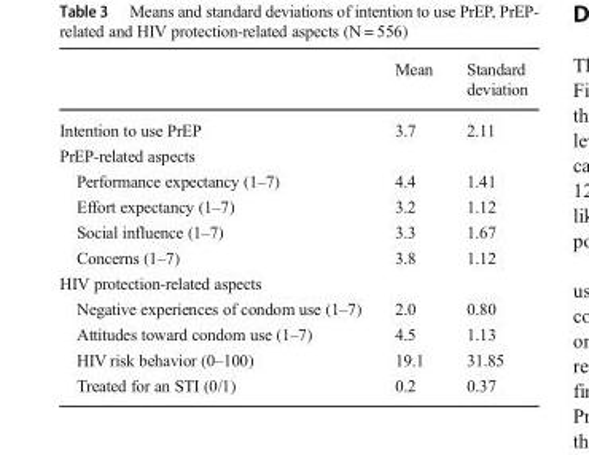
<table><thead><tr><td></td><td>Mean</td><td>Standard deviation</td></tr></thead><tbody><tr><td>Intention to use PrEP</td><td>3.7</td><td>2.11</td></tr><tr><td colspan="3">PrEP-related aspects</td></tr><tr><td>Performance expectancy (1–7)</td><td>4.4</td><td>1.41</td></tr><tr><td>Effort expectancy (1–7)</td><td>3.2</td><td>1.12</td></tr><tr><td>Social influence (1–7)</td><td>3.3</td><td>1.67</td></tr><tr><td>Concerns (1–7)</td><td>3.8</td><td>1.12</td></tr><tr><td colspan="3">HIV protection-related aspects</td></tr><tr><td>Negative experiences of condom use (1–7)</td><td>2.0</td><td>0.80</td></tr><tr><td>Attitudes toward condom use (1–7)</td><td>4.5</td><td>1.13</td></tr><tr><td>HIV risk behavior (0–100)</td><td>19.1</td><td>31.85</td></tr><tr><td>Treated for an STI (0/1)</td><td>0.2</td><td>0.37</td></tr></tbody></table>